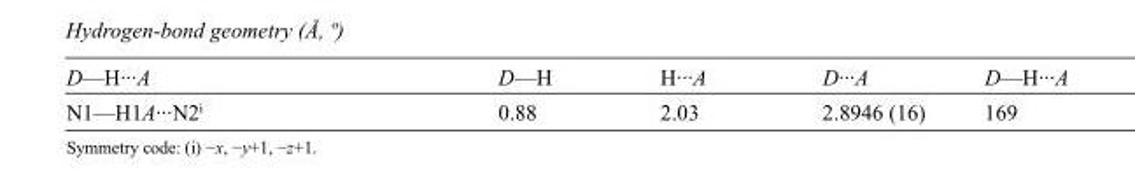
<table><tbody><tr><td>D—H···A</td><td>D—H</td><td>H···A</td><td>D···A</td><td>D—H···A</td></tr><tr><td>N1—H1A···N2<sup>i</sup></td><td>0.88</td><td>2.03</td><td>2.8946 (16)</td><td>169</td></tr></tbody></table>